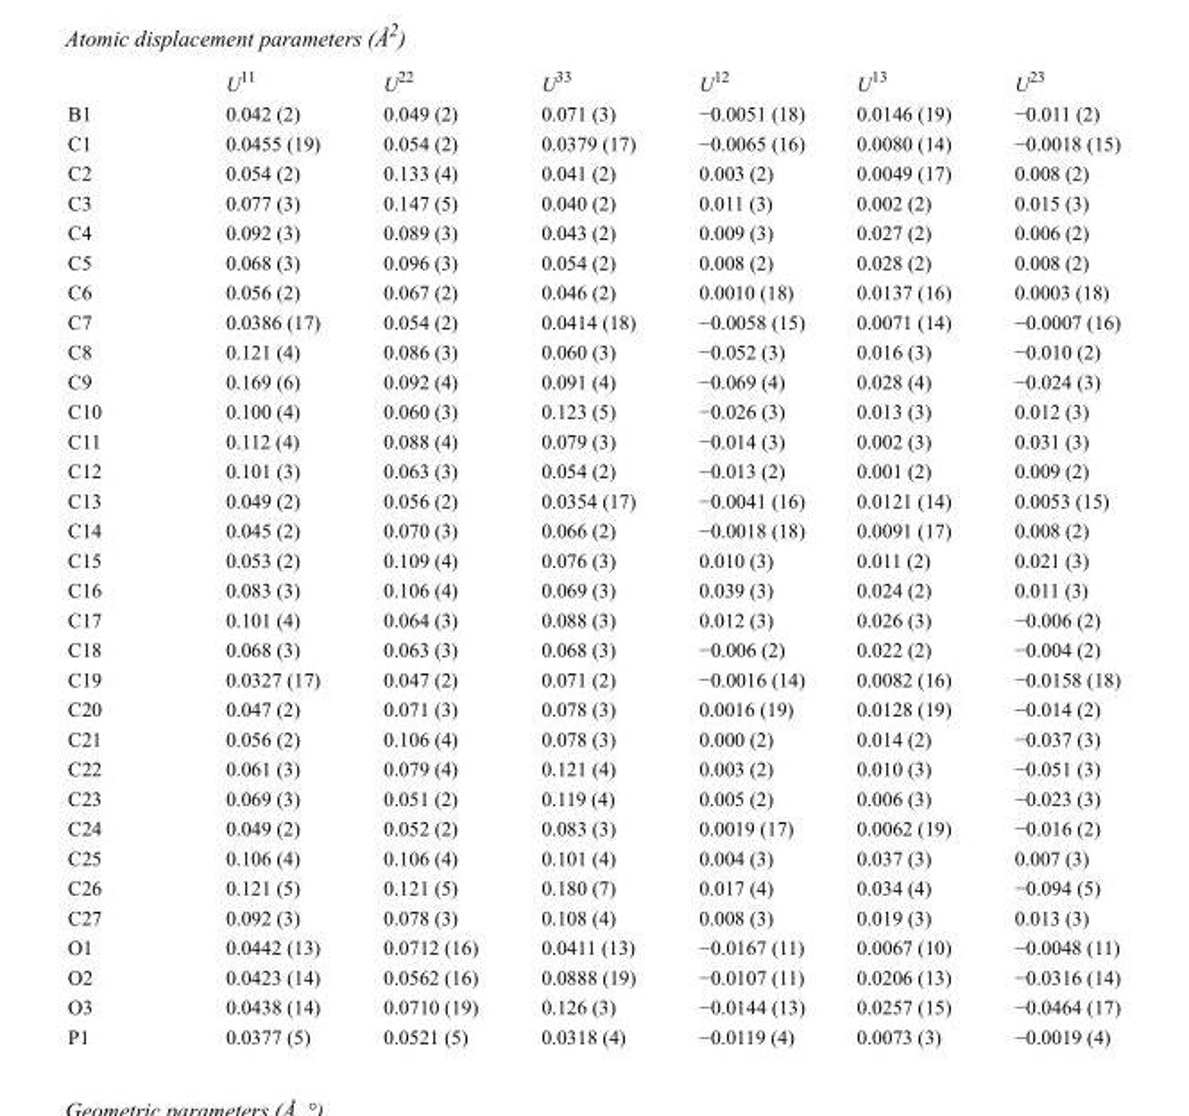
<table><thead><tr><td></td><td>U<sup>11</sup></td><td>U<sup>22</sup></td><td>U<sup>33</sup></td><td>U<sup>12</sup></td><td>U<sup>13</sup></td><td>U<sup>23</sup></td></tr></thead><tbody><tr><td>B1</td><td>0.042 (2)</td><td>0.049 (2)</td><td>0.071 (3)</td><td>−0.0051 (18)</td><td>0.0146 (19)</td><td>−0.011 (2)</td></tr><tr><td>C1</td><td>0.0455 (19)</td><td>0.054 (2)</td><td>0.0379 (17)</td><td>−0.0065 (16)</td><td>0.0080 (14)</td><td>−0.0018 (15)</td></tr><tr><td>C2</td><td>0.054 (2)</td><td>0.133 (4)</td><td>0.041 (2)</td><td>0.003 (2)</td><td>0.0049 (17)</td><td>0.008 (2)</td></tr><tr><td>C3</td><td>0.077 (3)</td><td>0.147 (5)</td><td>0.040 (2)</td><td>0.011 (3)</td><td>0.002 (2)</td><td>0.015 (3)</td></tr><tr><td>C4</td><td>0.092 (3)</td><td>0.089 (3)</td><td>0.043 (2)</td><td>0.009 (3)</td><td>0.027 (2)</td><td>0.006 (2)</td></tr><tr><td>C5</td><td>0.068 (3)</td><td>0.096 (3)</td><td>0.054 (2)</td><td>0.008 (2)</td><td>0.028 (2)</td><td>0.008 (2)</td></tr><tr><td>C6</td><td>0.056 (2)</td><td>0.067 (2)</td><td>0.046 (2)</td><td>0.0010 (18)</td><td>0.0137 (16)</td><td>0.0003 (18)</td></tr><tr><td>C7</td><td>0.0386 (17)</td><td>0.054 (2)</td><td>0.0414 (18)</td><td>−0.0058 (15)</td><td>0.0071 (14)</td><td>−0.0007 (16)</td></tr><tr><td>C8</td><td>0.121 (4)</td><td>0.086 (3)</td><td>0.060 (3)</td><td>−0.052 (3)</td><td>0.016 (3)</td><td>−0.010 (2)</td></tr><tr><td>C9</td><td>0.169 (6)</td><td>0.092 (4)</td><td>0.091 (4)</td><td>−0.069 (4)</td><td>0.028 (4)</td><td>−0.024 (3)</td></tr><tr><td>C10</td><td>0.100 (4)</td><td>0.060 (3)</td><td>0.123 (5)</td><td>−0.026 (3)</td><td>0.013 (3)</td><td>0.012 (3)</td></tr><tr><td>C11</td><td>0.112 (4)</td><td>0.088 (4)</td><td>0.079 (3)</td><td>−0.014 (3)</td><td>0.002 (3)</td><td>0.031 (3)</td></tr><tr><td>C12</td><td>0.101 (3)</td><td>0.063 (3)</td><td>0.054 (2)</td><td>−0.013 (2)</td><td>0.001 (2)</td><td>0.009 (2)</td></tr><tr><td>C13</td><td>0.049 (2)</td><td>0.056 (2)</td><td>0.0354 (17)</td><td>−0.0041 (16)</td><td>0.0121 (14)</td><td>0.0053 (15)</td></tr><tr><td>C14</td><td>0.045 (2)</td><td>0.070 (3)</td><td>0.066 (2)</td><td>−0.0018 (18)</td><td>0.0091 (17)</td><td>0.008 (2)</td></tr><tr><td>C15</td><td>0.053 (2)</td><td>0.109 (4)</td><td>0.076 (3)</td><td>0.010 (3)</td><td>0.011 (2)</td><td>0.021 (3)</td></tr><tr><td>C16</td><td>0.083 (3)</td><td>0.106 (4)</td><td>0.069 (3)</td><td>0.039 (3)</td><td>0.024 (2)</td><td>0.011 (3)</td></tr><tr><td>C17</td><td>0.101 (4)</td><td>0.064 (3)</td><td>0.088 (3)</td><td>0.012 (3)</td><td>0.026 (3)</td><td>−0.006 (2)</td></tr><tr><td>C18</td><td>0.068 (3)</td><td>0.063 (3)</td><td>0.068 (3)</td><td>−0.006 (2)</td><td>0.022 (2)</td><td>−0.004 (2)</td></tr><tr><td>C19</td><td>0.0327 (17)</td><td>0.047 (2)</td><td>0.071 (2)</td><td>−0.0016 (14)</td><td>0.0082 (16)</td><td>−0.0158 (18)</td></tr><tr><td>C20</td><td>0.047 (2)</td><td>0.071 (3)</td><td>0.078 (3)</td><td>0.0016 (19)</td><td>0.0128 (19)</td><td>−0.014 (2)</td></tr><tr><td>C21</td><td>0.056 (2)</td><td>0.106 (4)</td><td>0.078 (3)</td><td>0.000 (2)</td><td>0.014 (2)</td><td>−0.037 (3)</td></tr><tr><td>C22</td><td>0.061 (3)</td><td>0.079 (4)</td><td>0.121 (4)</td><td>0.003 (2)</td><td>0.010 (3)</td><td>−0.051 (3)</td></tr><tr><td>C23</td><td>0.069 (3)</td><td>0.051 (2)</td><td>0.119 (4)</td><td>0.005 (2)</td><td>0.006 (3)</td><td>−0.023 (3)</td></tr><tr><td>C24</td><td>0.049 (2)</td><td>0.052 (2)</td><td>0.083 (3)</td><td>0.0019 (17)</td><td>0.0062 (19)</td><td>−0.016 (2)</td></tr><tr><td>C25</td><td>0.106 (4)</td><td>0.106 (4)</td><td>0.101 (4)</td><td>0.004 (3)</td><td>0.037 (3)</td><td>0.007 (3)</td></tr><tr><td>C26</td><td>0.121 (5)</td><td>0.121 (5)</td><td>0.180 (7)</td><td>0.017 (4)</td><td>0.034 (4)</td><td>−0.094 (5)</td></tr><tr><td>C27</td><td>0.092 (3)</td><td>0.078 (3)</td><td>0.108 (4)</td><td>0.008 (3)</td><td>0.019 (3)</td><td>0.013 (3)</td></tr><tr><td>O1</td><td>0.0442 (13)</td><td>0.0712 (16)</td><td>0.0411 (13)</td><td>−0.0167 (11)</td><td>0.0067 (10)</td><td>−0.0048 (11)</td></tr><tr><td>O2</td><td>0.0423 (14)</td><td>0.0562 (16)</td><td>0.0888 (19)</td><td>−0.0107 (11)</td><td>0.0206 (13)</td><td>−0.0316 (14)</td></tr><tr><td>O3</td><td>0.0438 (14)</td><td>0.0710 (19)</td><td>0.126 (3)</td><td>−0.0144 (13)</td><td>0.0257 (15)</td><td>−0.0464 (17)</td></tr><tr><td>P1</td><td>0.0377 (5)</td><td>0.0521 (5)</td><td>0.0318 (4)</td><td>−0.0119 (4)</td><td>0.0073 (3)</td><td>−0.0019 (4)</td></tr></tbody></table>